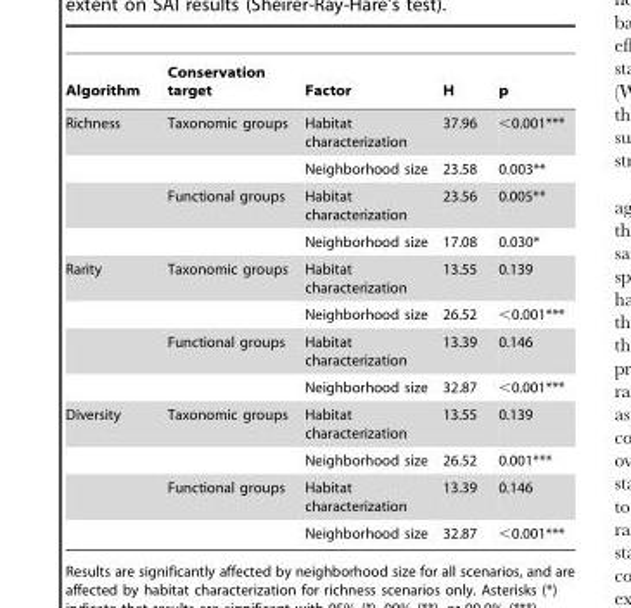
<table><thead><tr><td>Algorithm</td><td>Conservation target</td><td>Factor</td><td>H</td><td>p</td></tr></thead><tbody><tr><td rowspan="4">Richness</td><td>Taxonomic groups</td><td>Habitat characterization</td><td>37.96</td><td>&lt;0.001***</td></tr><tr><td></td><td>Neighborhood size</td><td>23.58</td><td>0.003**</td></tr><tr><td>Functional groups</td><td>Habitat characterization</td><td>23.56</td><td>0.005**</td></tr><tr><td></td><td>Neighborhood size</td><td>17.08</td><td>0.030*</td></tr><tr><td rowspan="4">Rarity</td><td>Taxonomic groups</td><td>Habitat characterization</td><td>13.55</td><td>0.139</td></tr><tr><td></td><td>Neighborhood size</td><td>26.52</td><td>&lt;0.001***</td></tr><tr><td>Functional groups</td><td>Habitat characterization</td><td>13.39</td><td>0.146</td></tr><tr><td></td><td>Neighborhood size</td><td>32.87</td><td>&lt;0.001***</td></tr><tr><td rowspan="4">Diversity</td><td>Taxonomic groups</td><td>Habitat characterization</td><td>13.55</td><td>0.139</td></tr><tr><td></td><td>Neighborhood size</td><td>26.52</td><td>0.001***</td></tr><tr><td>Functional groups</td><td>Habitat characterization</td><td>13.39</td><td>0.146</td></tr><tr><td></td><td>Neighborhood size</td><td>32.87</td><td>&lt;0.001***</td></tr></tbody></table>